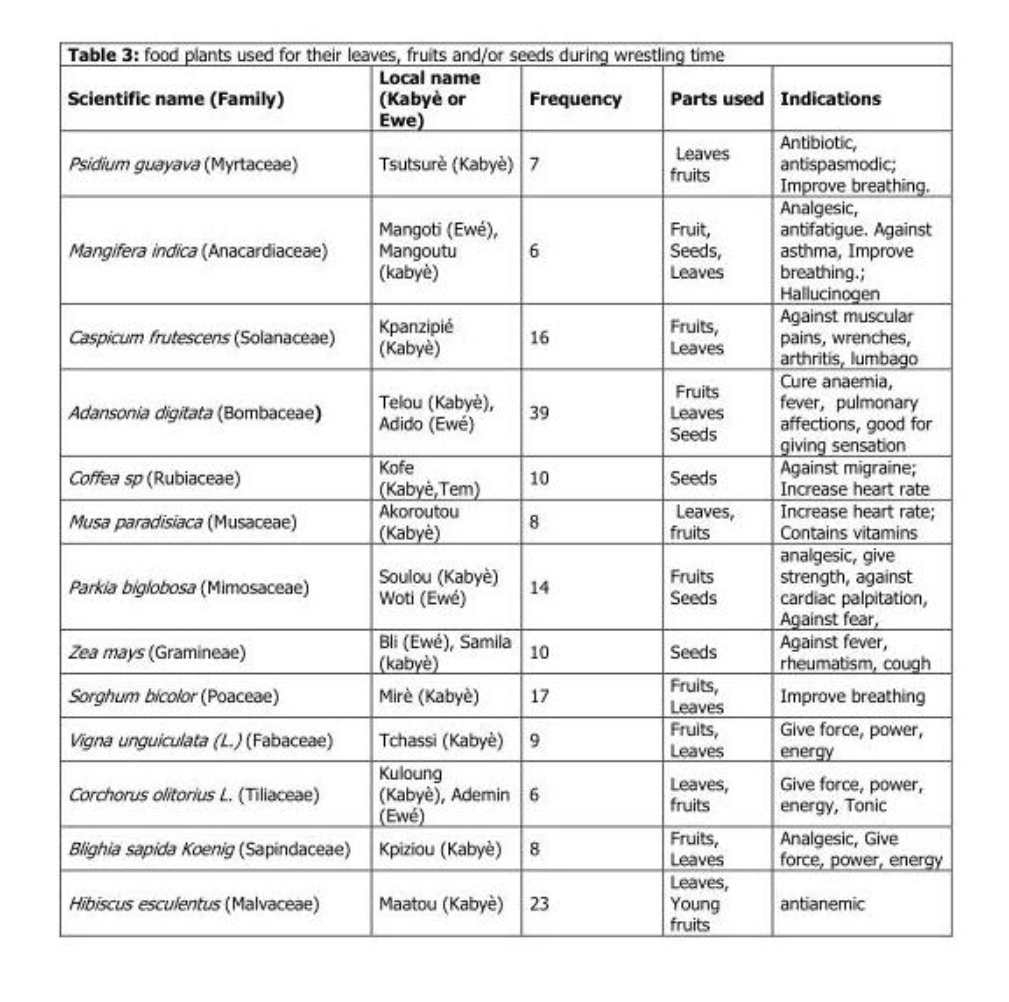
<table><thead><tr><td>Scientific name (Family)</td><td>Local name (Kabyè or Ewe)</td><td>Frequency</td><td>Parts used</td><td>Indications</td></tr></thead><tbody><tr><td>Psidium guayava (Myrtaceae)</td><td>Tsutsurè (Kabyè)</td><td>7</td><td>Leaves fruits</td><td>Antibiotic, antispasmodic; Improve breathing.</td></tr><tr><td>Mangifera indica (Anacardiaceae)</td><td>Mangoti (Ewé), Mangoutu (kabyè)</td><td>6</td><td>Fruit, Seeds, Leaves</td><td>Analgesic, antifatigue. Against asthma, Improve breathing.; Hallucinogen</td></tr><tr><td>Caspicum frutescens (Solanaceae)</td><td>Kpanzipié (Kabyè)</td><td>16</td><td>Fruits, Leaves</td><td>Against muscular pains, wrenches, arthritis, lumbago</td></tr><tr><td>Adansonia digitata (Bombaceae)</td><td>Telou (Kabyè), Adido (Ewé)</td><td>39</td><td>Fruits Leaves Seeds</td><td>Cure anaemia, fever, pulmonary affections, good for giving sensation</td></tr><tr><td>Coffea sp (Rubiaceae)</td><td>Kofe (Kabyè,Tem)</td><td>10</td><td>Seeds</td><td>Against migraine; Increase heart rate</td></tr><tr><td>Musa paradisiaca (Musaceae)</td><td>Akoroutou (Kabyè)</td><td>8</td><td>Leaves, fruits</td><td>Increase heart rate; Contains vitamins</td></tr><tr><td>Parkia biglobosa (Mimosaceae)</td><td>Soulou (Kabyè) Woti (Ewé)</td><td>14</td><td>Fruits Seeds</td><td>analgesic, give strength, against cardiac palpitation, Against fear,</td></tr><tr><td>Zea mays (Gramineae)</td><td>Bli (Ewé), Samila (kabyè)</td><td>10</td><td>Seeds</td><td>Against fever, rheumatism, cough</td></tr><tr><td>Sorghum bicolor (Poaceae)</td><td>Mirè (Kabyè)</td><td>17</td><td>Fruits, Leaves</td><td>Improve breathing</td></tr><tr><td>Vigna unguiculata (L.) (Fabaceae)</td><td>Tchassi (Kabyè)</td><td>9</td><td>Fruits, Leaves</td><td>Give force, power, energy</td></tr><tr><td>Corchorus olitorius L. (Tiliaceae)</td><td>Kuloung (Kabyè), Ademin (Ewé)</td><td>6</td><td>Leaves, fruits</td><td>Give force, power, energy, Tonic</td></tr><tr><td>Blighia sapida Koenig (Sapindaceae)</td><td>Kpiziou (Kabyè)</td><td>8</td><td>Fruits, Leaves</td><td>Analgesic, Give force, power, energy</td></tr><tr><td>Hibiscus esculentus (Malvaceae)</td><td>Maatou (Kabyè)</td><td>23</td><td>Leaves, Young fruits</td><td>antianemic</td></tr></tbody></table>